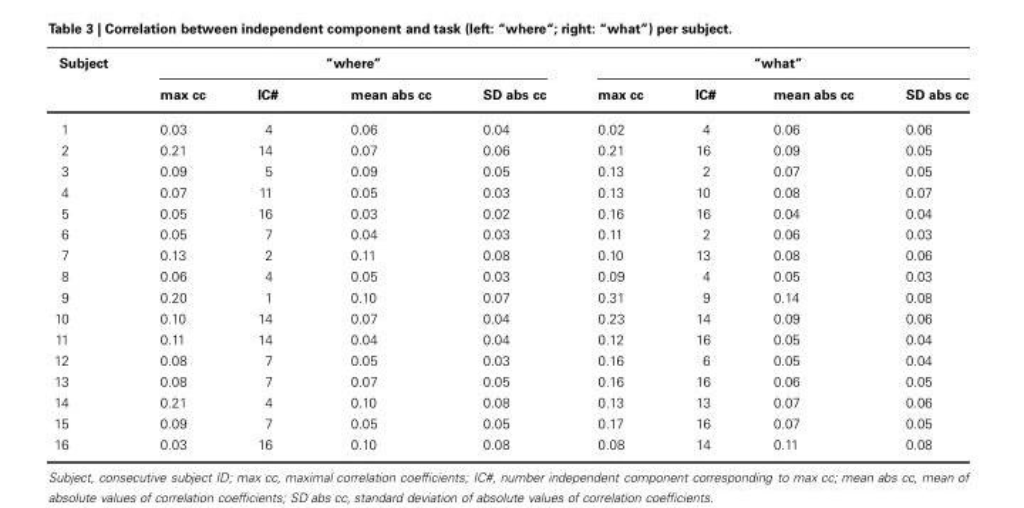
<table><thead><tr><td rowspan="2">Subject</td><td colspan="4">“where”</td><td colspan="4">“what”</td></tr><tr><td>max cc</td><td>IC#</td><td>mean abs cc</td><td>SD abs cc</td><td>max cc</td><td>IC#</td><td>mean abs cc</td><td>SD abs cc</td></tr></thead><tbody><tr><td>1</td><td>0.03</td><td>4</td><td>0.06</td><td>0.04</td><td>0.02</td><td>4</td><td>0.06</td><td>0.06</td></tr><tr><td>2</td><td>0.21</td><td>14</td><td>0.07</td><td>0.06</td><td>0.21</td><td>16</td><td>0.09</td><td>0.05</td></tr><tr><td>3</td><td>0.09</td><td>5</td><td>0.09</td><td>0.05</td><td>0.13</td><td>2</td><td>0.07</td><td>0.05</td></tr><tr><td>4</td><td>0.07</td><td>11</td><td>0.05</td><td>0.03</td><td>0.13</td><td>10</td><td>0.08</td><td>0.07</td></tr><tr><td>5</td><td>0.05</td><td>16</td><td>0.03</td><td>0.02</td><td>0.16</td><td>16</td><td>0.04</td><td>0.04</td></tr><tr><td>6</td><td>0.05</td><td>7</td><td>0.04</td><td>0.03</td><td>0.11</td><td>2</td><td>0.06</td><td>0.03</td></tr><tr><td>7</td><td>0.13</td><td>2</td><td>0.11</td><td>0.08</td><td>0.10</td><td>13</td><td>0.08</td><td>0.06</td></tr><tr><td>8</td><td>0.06</td><td>4</td><td>0.05</td><td>0.03</td><td>0.09</td><td>4</td><td>0.05</td><td>0.03</td></tr><tr><td>9</td><td>0.20</td><td>1</td><td>0.10</td><td>0.07</td><td>0.31</td><td>9</td><td>0.14</td><td>0.08</td></tr><tr><td>10</td><td>0.10</td><td>14</td><td>0.07</td><td>0.04</td><td>0.23</td><td>14</td><td>0.09</td><td>0.06</td></tr><tr><td>11</td><td>0.11</td><td>14</td><td>0.04</td><td>0.04</td><td>0.12</td><td>16</td><td>0.05</td><td>0.04</td></tr><tr><td>12</td><td>0.08</td><td>7</td><td>0.05</td><td>0.03</td><td>0.16</td><td>6</td><td>0.05</td><td>0.04</td></tr><tr><td>13</td><td>0.08</td><td>7</td><td>0.07</td><td>0.05</td><td>0.16</td><td>16</td><td>0.06</td><td>0.05</td></tr><tr><td>14</td><td>0.21</td><td>4</td><td>0.10</td><td>0.08</td><td>0.13</td><td>13</td><td>0.07</td><td>0.06</td></tr><tr><td>15</td><td>0.09</td><td>7</td><td>0.05</td><td>0.05</td><td>0.17</td><td>16</td><td>0.07</td><td>0.05</td></tr><tr><td>16</td><td>0.03</td><td>16</td><td>0.10</td><td>0.08</td><td>0.08</td><td>14</td><td>0.11</td><td>0.08</td></tr></tbody></table>